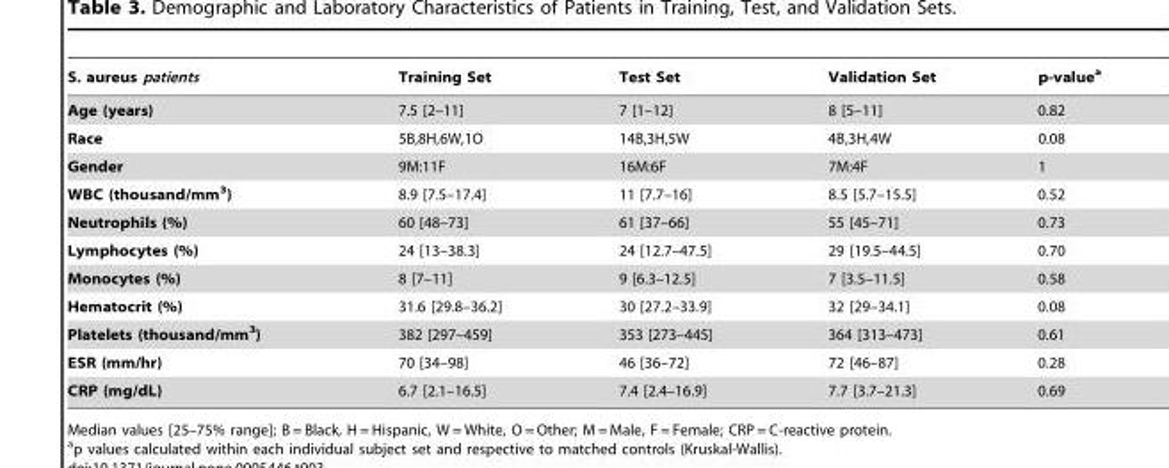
<table><thead><tr><td>S. aureus patients</td><td>Training Set</td><td>Test Set</td><td>Validation Set</td><td>p-value<sup>a</sup></td></tr></thead><tbody><tr><td>Age (years)</td><td>7.5 [2–11]</td><td>7 [1–12]</td><td>8 [5–11]</td><td>0.82</td></tr><tr><td>Race</td><td>5B,8H,6W,1O</td><td>14B,3H,5W</td><td>4B,3H,4W</td><td>0.08</td></tr><tr><td>Gender</td><td>9M:11F</td><td>16M:6F</td><td>7M:4F</td><td>1</td></tr><tr><td>WBC (thousand/mm<sup>3</sup>)</td><td>8.9 [7.5–17.4]</td><td>11 [7.7–16]</td><td>8.5 [5.7–15.5]</td><td>0.52</td></tr><tr><td>Neutrophils (%)</td><td>60 [48–73]</td><td>61 [37–66]</td><td>55 [45–71]</td><td>0.73</td></tr><tr><td>Lymphocytes (%)</td><td>24 [13–38.3]</td><td>24 [12.7–47.5]</td><td>29 [19.5–44.5]</td><td>0.70</td></tr><tr><td>Monocytes (%)</td><td>8 [7–11]</td><td>9 [6.3–12.5]</td><td>7 [3.5–11.5]</td><td>0.58</td></tr><tr><td>Hematocrit (%)</td><td>31.6 [29.8–36.2]</td><td>30 [27.2–33.9]</td><td>32 [29–34.1]</td><td>0.08</td></tr><tr><td>Platelets (thousand/mm<sup>3</sup>)</td><td>382 [297–459]</td><td>353 [273–445]</td><td>364 [313–473]</td><td>0.61</td></tr><tr><td>ESR (mm/hr)</td><td>70 [34–98]</td><td>46 [36–72]</td><td>72 [46–87]</td><td>0.28</td></tr><tr><td>CRP (mg/dL)</td><td>6.7 [2.1–16.5]</td><td>7.4 [2.4–16.9]</td><td>7.7 [3.7–21.3]</td><td>0.69</td></tr></tbody></table>